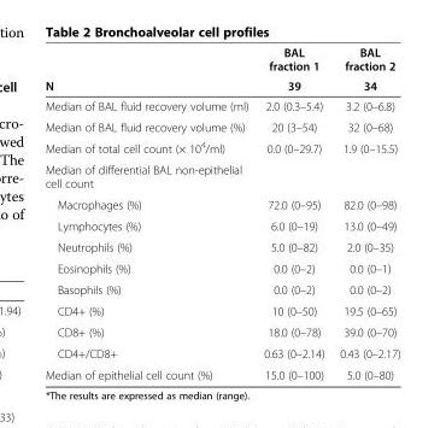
<table><thead><tr><td rowspan="2">N</td><td rowspan="2">BAL fraction 1 39</td><td rowspan="2">BAL fraction 2 34</td></tr><tr></tr></thead><tbody><tr><td>Median of BAL fluid recovery volume (ml)</td><td>2.0 (0.3–5.4)</td><td>3.2 (0–6.8)</td></tr><tr><td>Median of BAL fluid recovery volume (%)</td><td>20 (3–54)</td><td>32 (0–68)</td></tr><tr><td>Median of total cell count (× 10<sup>4</sup>/ml)</td><td>0.0 (0–29.7)</td><td>1.9 (0–15.5)</td></tr><tr><td colspan="3">Median of differential BAL non-epithelial cell count</td></tr><tr><td>Macrophages (%)</td><td>72.0 (0–95)</td><td>82.0 (0–98)</td></tr><tr><td>Lymphocytes (%)</td><td>6.0 (0–19)</td><td>13.0 (0–49)</td></tr><tr><td>Neutrophils (%)</td><td>5.0 (0–82)</td><td>2.0 (0–35)</td></tr><tr><td>Eosinophils (%)</td><td>0.0 (0–2)</td><td>0.0 (0–1)</td></tr><tr><td>Basophils (%)</td><td>0.0 (0–2)</td><td>0.0 (0–2)</td></tr><tr><td>CD4+ (%)</td><td>10 (0–50)</td><td>19.5 (0–65)</td></tr><tr><td>CD8+ (%)</td><td>18.0 (0–78)</td><td>39.0 (0–70)</td></tr><tr><td>CD4+/CD8+</td><td>0.63 (0–2.14)</td><td>0.43 (0–2.17)</td></tr><tr><td>Median of epithelial cell count (%)</td><td>15.0 (0–100)</td><td>5.0 (0–80)</td></tr></tbody></table>